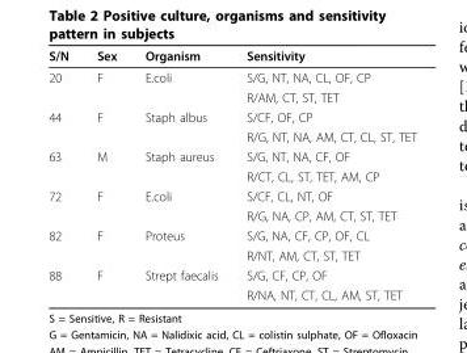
<table><thead><tr><td>S/N</td><td>Sex</td><td>Organism</td><td>Sensitivity</td></tr></thead><tbody><tr><td rowspan="2">20</td><td>F</td><td>E.coli</td><td>S/G, NT, NA, CL, OF, CP</td></tr><tr><td></td><td></td><td>R/AM, CT, ST, TET</td></tr><tr><td rowspan="2">44</td><td>F</td><td>Staph albus</td><td>S/CF, OF, CP</td></tr><tr><td></td><td></td><td>R/G, NT, NA, AM, CT, CL, ST, TET</td></tr><tr><td rowspan="2">63</td><td>M</td><td>Staph aureus</td><td>S/G, NT, NA, CF, OF</td></tr><tr><td></td><td></td><td>R/CT, CL, ST, TET, AM, CP</td></tr><tr><td rowspan="2">72</td><td>F</td><td>E.coli</td><td>S/CF, CL, NT, OF</td></tr><tr><td></td><td></td><td>R/G, NA, CP, AM, CT, ST, TET</td></tr><tr><td rowspan="2">82</td><td>F</td><td>Proteus</td><td>S/G, NA, CF, CP, OF, CL</td></tr><tr><td></td><td></td><td>R/NT, AM, CT, ST, TET</td></tr><tr><td rowspan="2">88</td><td>F</td><td>Strept faecalis</td><td>S/G, CF, CP, OF</td></tr><tr><td></td><td></td><td>R/NA, NT, CT, CL, AM, ST, TET</td></tr></tbody></table>